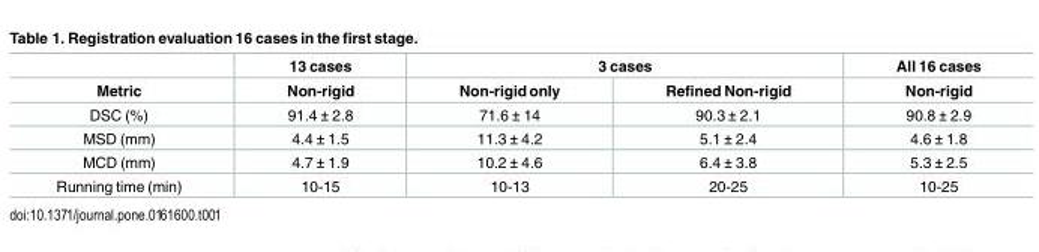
<table><thead><tr><td rowspan="2">Metric</td><td rowspan="2">13 cases Non-rigid</td><td colspan="2">3 cases</td><td rowspan="2">All 16 cases Non-rigid</td></tr><tr><td>Non-rigid only</td><td>Refined Non-rigid</td></tr></thead><tbody><tr><td>DSC (%)</td><td>91.4 ± 2.8</td><td>71.6 ± 14</td><td>90.3 ± 2.1</td><td>90.8 ± 2.9</td></tr><tr><td>MSD (mm)</td><td>4.4 ± 1.5</td><td>11.3 ± 4.2</td><td>5.1 ± 2.4</td><td>4.6 ± 1.8</td></tr><tr><td>MCD (mm)</td><td>4.7 ± 1.9</td><td>10.2 ± 4.6</td><td>6.4 ± 3.8</td><td>5.3 ± 2.5</td></tr><tr><td>Running time (min)</td><td>10-15</td><td>10-13</td><td>20-25</td><td>10-25</td></tr></tbody></table>